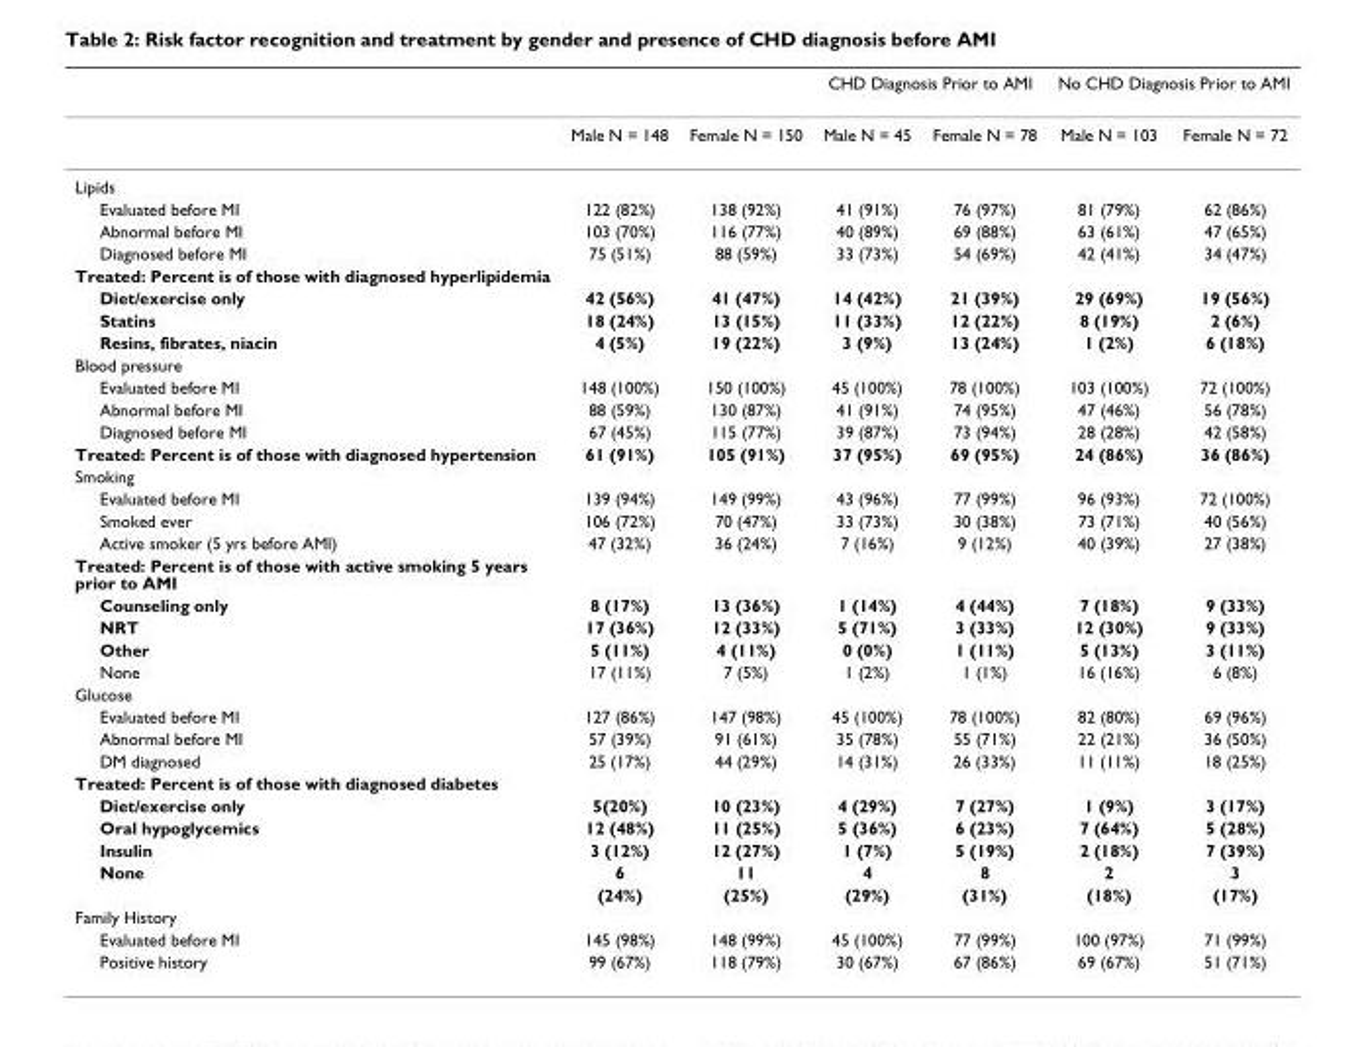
<table><thead><tr><td rowspan="2"></td><td rowspan="2">Male N = 148</td><td rowspan="2">Female N = 150</td><td colspan="2">CHD Diagnosis Prior to AMI</td><td colspan="2">No CHD Diagnosis Prior to AMI</td></tr><tr><td>Male N = 45</td><td>Female N = 78</td><td>Male N = 103</td><td>Female N = 72</td></tr></thead><tbody><tr><td colspan="7">Lipids</td></tr><tr><td>Evaluated before MI</td><td>122 (82%)</td><td>138 (92%)</td><td>41 (91%)</td><td>76 (97%)</td><td>81 (79%)</td><td>62 (86%)</td></tr><tr><td>Abnormal before MI</td><td>103 (70%)</td><td>116 (77%)</td><td>40 (89%)</td><td>69 (88%)</td><td>63 (61%)</td><td>47 (65%)</td></tr><tr><td>Diagnosed before MI</td><td>75 (51%)</td><td>88 (59%)</td><td>33 (73%)</td><td>54 (69%)</td><td>42 (41%)</td><td>34 (47%)</td></tr><tr><td colspan="7">Treated: Percent is of those with diagnosed hyperlipidemia</td></tr><tr><td>Diet/exercise only</td><td>42 (56%)</td><td>41 (47%)</td><td>14 (42%)</td><td>21 (39%)</td><td>29 (69%)</td><td>19 (56%)</td></tr><tr><td>Statins</td><td>18 (24%)</td><td>13 (15%)</td><td>11 (33%)</td><td>12 (22%)</td><td>8 (19%)</td><td>2 (6%)</td></tr><tr><td>Resins, fibrates, niacin</td><td>4 (5%)</td><td>19 (22%)</td><td>3 (9%)</td><td>13 (24%)</td><td>1 (2%)</td><td>6 (18%)</td></tr><tr><td colspan="7">Blood pressure</td></tr><tr><td>Evaluated before MI</td><td>148 (100%)</td><td>150 (100%)</td><td>45 (100%)</td><td>78 (100%)</td><td>103 (100%)</td><td>72 (100%)</td></tr><tr><td>Abnormal before MI</td><td>88 (59%)</td><td>130 (87%)</td><td>41 (91%)</td><td>74 (95%)</td><td>47 (46%)</td><td>56 (78%)</td></tr><tr><td>Diagnosed before MI</td><td>67 (45%)</td><td>115 (77%)</td><td>39 (87%)</td><td>73 (94%)</td><td>28 (28%)</td><td>42 (58%)</td></tr><tr><td>Treated: Percent is of those with diagnosed hypertension</td><td>61 (91%)</td><td>105 (91%)</td><td>37 (95%)</td><td>69 (95%)</td><td>24 (86%)</td><td>36 (86%)</td></tr><tr><td colspan="7">Smoking</td></tr><tr><td>Evaluated before MI</td><td>139 (94%)</td><td>149 (99%)</td><td>43 (96%)</td><td>77 (99%)</td><td>96 (93%)</td><td>72 (100%)</td></tr><tr><td>Smoked ever</td><td>106 (72%)</td><td>70 (47%)</td><td>33 (73%)</td><td>30 (38%)</td><td>73 (71%)</td><td>40 (56%)</td></tr><tr><td>Active smoker (5 yrs before AMI)</td><td>47 (32%)</td><td>36 (24%)</td><td>7 (16%)</td><td>9 (12%)</td><td>40 (39%)</td><td>27 (38%)</td></tr><tr><td colspan="7">Treated: Percent is of those with active smoking 5 years prior to AMI</td></tr><tr><td>Counseling only</td><td>8 (17%)</td><td>13 (36%)</td><td>1 (14%)</td><td>4 (44%)</td><td>7 (18%)</td><td>9 (33%)</td></tr><tr><td>NRT</td><td>17 (36%)</td><td>12 (33%)</td><td>5 (71%)</td><td>3 (33%)</td><td>12 (30%)</td><td>9 (33%)</td></tr><tr><td>Other</td><td>5 (11%)</td><td>4 (11%)</td><td>0 (0%)</td><td>1 (11%)</td><td>5 (13%)</td><td>3 (11%)</td></tr><tr><td>None</td><td>17 (11%)</td><td>7 (5%)</td><td>1 (2%)</td><td>1 (1%)</td><td>16 (16%)</td><td>6 (8%)</td></tr><tr><td colspan="7">Glucose</td></tr><tr><td>Evaluated before MI</td><td>127 (86%)</td><td>147 (98%)</td><td>45 (100%)</td><td>78 (100%)</td><td>82 (80%)</td><td>69 (96%)</td></tr><tr><td>Abnormal before MI</td><td>57 (39%)</td><td>91 (61%)</td><td>35 (78%)</td><td>55 (71%)</td><td>22 (21%)</td><td>36 (50%)</td></tr><tr><td>DM diagnosed</td><td>25 (17%)</td><td>44 (29%)</td><td>14 (31%)</td><td>26 (33%)</td><td>11 (11%)</td><td>18 (25%)</td></tr><tr><td colspan="7">Treated: Percent is of those with diagnosed diabetes</td></tr><tr><td>Diet/exercise only</td><td>5(20%)</td><td>10 (23%)</td><td>4 (29%)</td><td>7 (27%)</td><td>1 (9%)</td><td>3 (17%)</td></tr><tr><td>Oral hypoglycemics</td><td>12 (48%)</td><td>11 (25%)</td><td>5 (36%)</td><td>6 (23%)</td><td>7 (64%)</td><td>5 (28%)</td></tr><tr><td>Insulin</td><td>3 (12%)</td><td>12 (27%)</td><td>1 (7%)</td><td>5 (19%)</td><td>2 (18%)</td><td>7 (39%)</td></tr><tr><td rowspan="2">None</td><td>6</td><td>11</td><td>4</td><td>8</td><td>2</td><td>3</td></tr><tr><td>(24%)</td><td>(25%)</td><td>(29%)</td><td>(31%)</td><td>(18%)</td><td>(17%)</td></tr><tr><td colspan="7">Family History</td></tr><tr><td>Evaluated before MI</td><td>145 (98%)</td><td>148 (99%)</td><td>45 (100%)</td><td>77 (99%)</td><td>100 (97%)</td><td>71 (99%)</td></tr><tr><td>Positive history</td><td>99 (67%)</td><td>118 (79%)</td><td>30 (67%)</td><td>67 (86%)</td><td>69 (67%)</td><td>51 (71%)</td></tr></tbody></table>